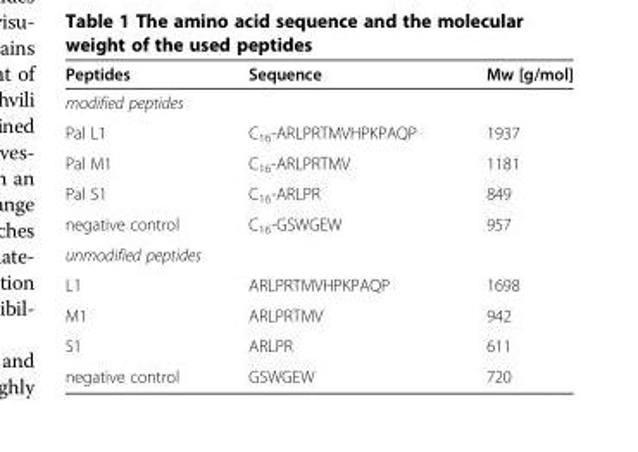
<table><thead><tr><td>Peptides</td><td>Sequence</td><td>Mw [g/mol]</td></tr></thead><tbody><tr><td colspan="3">modified peptides</td></tr><tr><td>Pal L1</td><td>C<sub>16</sub>-ARLPRTMVHPKPAQP</td><td>1937</td></tr><tr><td>Pal M1</td><td>C<sub>16</sub>-ARLPRTMV</td><td>1181</td></tr><tr><td>Pal S1</td><td>C<sub>16</sub>-ARLPR</td><td>849</td></tr><tr><td>negative control</td><td>C<sub>16</sub>-GSWGEW</td><td>957</td></tr><tr><td colspan="3">unmodified peptides</td></tr><tr><td>L1</td><td>ARLPRTMVHPKPAQP</td><td>1698</td></tr><tr><td>M1</td><td>ARLPRTMV</td><td>942</td></tr><tr><td>S1</td><td>ARLPR</td><td>611</td></tr><tr><td>negative control</td><td>GSWGEW</td><td>720</td></tr></tbody></table>